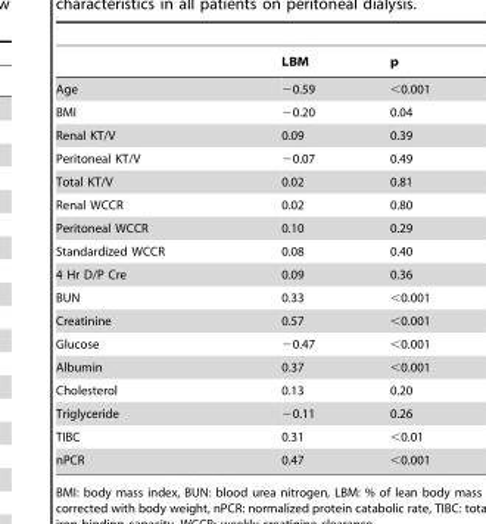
<table><thead><tr><td></td><td>LBM</td><td>p</td></tr></thead><tbody><tr><td>Age</td><td>−0.59</td><td>&lt;0.001</td></tr><tr><td>BMI</td><td>−0.20</td><td>0.04</td></tr><tr><td>Renal KT/V</td><td>0.09</td><td>0.39</td></tr><tr><td>Peritoneal KT/V</td><td>−0.07</td><td>0.49</td></tr><tr><td>Total KT/V</td><td>0.02</td><td>0.81</td></tr><tr><td>Renal WCCR</td><td>0.02</td><td>0.80</td></tr><tr><td>Peritoneal WCCR</td><td>0.10</td><td>0.29</td></tr><tr><td>Standardized WCCR</td><td>0.08</td><td>0.40</td></tr><tr><td>4 Hr D/P Cre</td><td>0.09</td><td>0.36</td></tr><tr><td>BUN</td><td>0.33</td><td>&lt;0.001</td></tr><tr><td>Creatinine</td><td>0.57</td><td>&lt;0.001</td></tr><tr><td>Glucose</td><td>−0.47</td><td>&lt;0.001</td></tr><tr><td>Albumin</td><td>0.37</td><td>&lt;0.001</td></tr><tr><td>Cholesterol</td><td>0.13</td><td>0.20</td></tr><tr><td>Triglyceride</td><td>−0.11</td><td>0.26</td></tr><tr><td>TIBC</td><td>0.31</td><td>&lt;0.01</td></tr><tr><td>nPCR</td><td>0.47</td><td>&lt;0.001</td></tr></tbody></table>